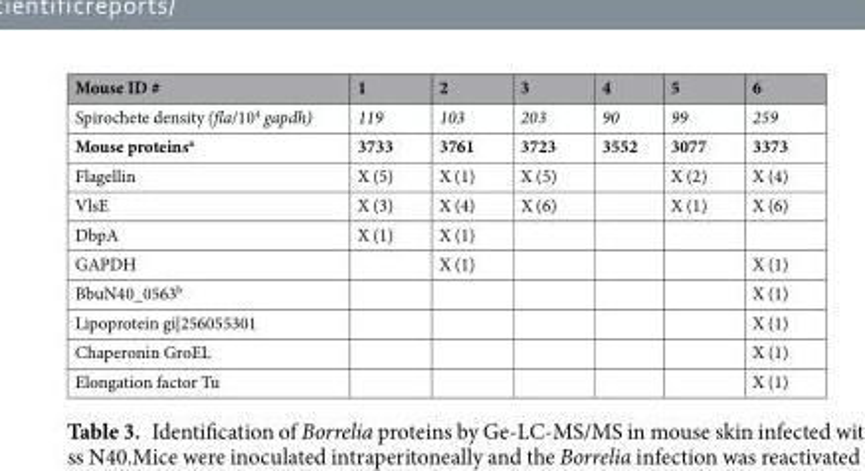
<table><thead><tr><td>Mouse ID #</td><td>1</td><td>2</td><td>3</td><td>4</td><td>5</td><td>6</td></tr></thead><tbody><tr><td>Spirochete density (fla/10<sup>4</sup> gapdh)</td><td>119</td><td>103</td><td>203</td><td>90</td><td>99</td><td>259</td></tr><tr><td>Mouse proteins<sup>a</sup></td><td>3733</td><td>3761</td><td>3723</td><td>3552</td><td>3077</td><td>3373</td></tr><tr><td>Flagellin</td><td>X (5)</td><td>X (1)</td><td>X (5)</td><td></td><td>X (2)</td><td>X (4)</td></tr><tr><td>VlsE</td><td>X (3)</td><td>X (4)</td><td>X (6)</td><td></td><td>X (1)</td><td>X (6)</td></tr><tr><td>DbpA</td><td>X (1)</td><td>X (1)</td><td></td><td></td><td></td><td></td></tr><tr><td>GAPDH</td><td></td><td>X (1)</td><td></td><td></td><td></td><td>X (1)</td></tr><tr><td>BbuN40_0563<sup>b</sup></td><td></td><td></td><td></td><td></td><td></td><td>X (1)</td></tr><tr><td>Lipoprotein gi|256055301</td><td></td><td></td><td></td><td></td><td></td><td>X (1)</td></tr><tr><td>Chaperonin GroEL</td><td></td><td></td><td></td><td></td><td></td><td>X (1)</td></tr><tr><td>Elongation factor Tu</td><td></td><td></td><td></td><td></td><td></td><td>X (1)</td></tr></tbody></table>